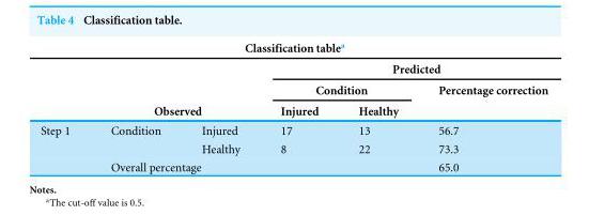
<table><thead><tr><td colspan="6">Classification table<sup>a</sup></td></tr><tr><td rowspan="3"></td><td rowspan="2"></td><td rowspan="2"></td><td colspan="3">Predicted</td></tr><tr><td colspan="2">Condition</td><td rowspan="2">Percentage correction</td></tr><tr><td colspan="2">Observed</td><td>Injured</td><td>Healthy</td></tr></thead><tbody><tr><td rowspan="3">Step 1</td><td>Condition</td><td>Injured</td><td>17</td><td>13</td><td>56.7</td></tr><tr><td></td><td>Healthy</td><td>8</td><td>22</td><td>73.3</td></tr><tr><td colspan="2">Overall percentage</td><td></td><td></td><td>65.0</td></tr></tbody></table>